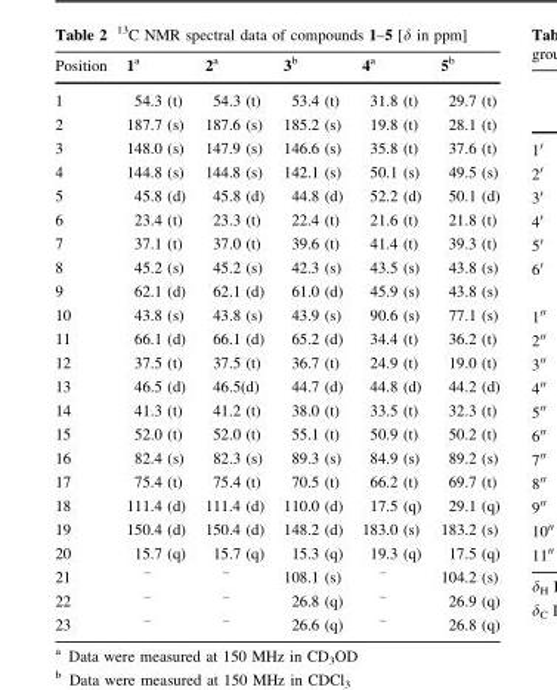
<table><thead><tr><td>Position</td><td>1<sup>a</sup></td><td>2<sup>a</sup></td><td>3<sup>b</sup></td><td>4<sup>a</sup></td><td>5<sup>b</sup></td></tr></thead><tbody><tr><td>1</td><td>54.3 (t)</td><td>54.3 (t)</td><td>53.4 (t)</td><td>31.8 (t)</td><td>29.7 (t)</td></tr><tr><td>2</td><td>187.7 (s)</td><td>187.6 (s)</td><td>185.2 (s)</td><td>19.8 (t)</td><td>28.1 (t)</td></tr><tr><td>3</td><td>148.0 (s)</td><td>147.9 (s)</td><td>146.6 (s)</td><td>35.8 (t)</td><td>37.6 (t)</td></tr><tr><td>4</td><td>144.8 (s)</td><td>144.8 (s)</td><td>142.1 (s)</td><td>50.1 (s)</td><td>49.5 (s)</td></tr><tr><td>5</td><td>45.8 (d)</td><td>45.8 (d)</td><td>44.8 (d)</td><td>52.2 (d)</td><td>50.1 (d)</td></tr><tr><td>6</td><td>23.4 (t)</td><td>23.3 (t)</td><td>22.4 (t)</td><td>21.6 (t)</td><td>21.8 (t)</td></tr><tr><td>7</td><td>37.1 (t)</td><td>37.0 (t)</td><td>39.6 (t)</td><td>41.4 (t)</td><td>39.3 (t)</td></tr><tr><td>8</td><td>45.2 (s)</td><td>45.2 (s)</td><td>42.3 (s)</td><td>43.5 (s)</td><td>43.8 (s)</td></tr><tr><td>9</td><td>62.1 (d)</td><td>62.1 (d)</td><td>61.0 (d)</td><td>45.9 (s)</td><td>43.8 (s)</td></tr><tr><td>10</td><td>43.8 (s)</td><td>43.8 (s)</td><td>43.9 (s)</td><td>90.6 (s)</td><td>77.1 (s)</td></tr><tr><td>11</td><td>66.1 (d)</td><td>66.1 (d)</td><td>65.2 (d)</td><td>34.4 (t)</td><td>36.2 (t)</td></tr><tr><td>12</td><td>37.5 (t)</td><td>37.5 (t)</td><td>36.7 (t)</td><td>24.9 (t)</td><td>19.0 (t)</td></tr><tr><td>13</td><td>46.5 (d)</td><td>46.5(d)</td><td>44.7 (d)</td><td>44.8 (d)</td><td>44.2 (d)</td></tr><tr><td>14</td><td>41.3 (t)</td><td>41.2 (t)</td><td>38.0 (t)</td><td>33.5 (t)</td><td>32.3 (t)</td></tr><tr><td>15</td><td>52.0 (t)</td><td>52.0 (t)</td><td>55.1 (t)</td><td>50.9 (t)</td><td>50.2 (t)</td></tr><tr><td>16</td><td>82.4 (s)</td><td>82.3 (s)</td><td>89.3 (s)</td><td>84.9 (s)</td><td>89.2 (s)</td></tr><tr><td>17</td><td>75.4 (t)</td><td>75.4 (t)</td><td>70.5 (t)</td><td>66.2 (t)</td><td>69.7 (t)</td></tr><tr><td>18</td><td>111.4 (d)</td><td>111.4 (d)</td><td>110.0 (d)</td><td>17.5 (q)</td><td>29.1 (q)</td></tr><tr><td>19</td><td>150.4 (d)</td><td>150.4 (d)</td><td>148.2 (d)</td><td>183.0 (s)</td><td>183.2 (s)</td></tr><tr><td>20</td><td>15.7 (q)</td><td>15.7 (q)</td><td>15.3 (q)</td><td>19.3 (q)</td><td>17.5 (q)</td></tr><tr><td>21</td><td><sup>–</sup></td><td><sup>–</sup></td><td>108.1 (s)</td><td><sup>–</sup></td><td>104.2 (s)</td></tr><tr><td>22</td><td><sup>–</sup></td><td><sup>–</sup></td><td>26.8 (q)</td><td><sup>–</sup></td><td>26.9 (q)</td></tr><tr><td>23</td><td><sup>–</sup></td><td><sup>–</sup></td><td>26.6 (q)</td><td><sup>–</sup></td><td>26.8 (q)</td></tr></tbody></table>